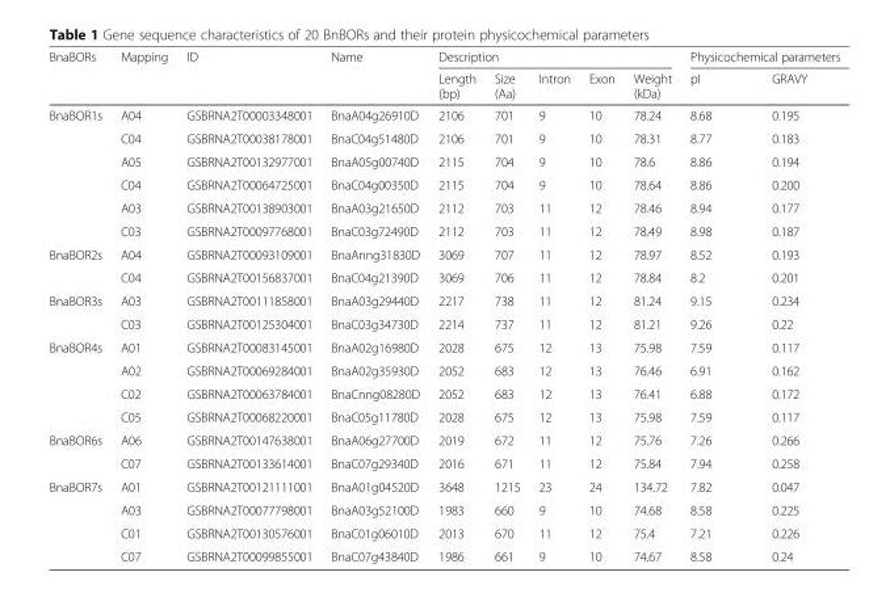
<table><thead><tr><td rowspan="2">BnaBORs</td><td rowspan="2">Mapping</td><td rowspan="2">ID</td><td rowspan="2">Name</td><td colspan="5">Description</td><td colspan="2">Physicochemical parameters</td></tr><tr><td>Length (bp)</td><td>Size (Aa)</td><td>Intron</td><td>Exon</td><td>Weight (kDa)</td><td>pI</td><td>GRAVY</td></tr></thead><tbody><tr><td rowspan="6">BnaBOR1s</td><td>A04</td><td>GSBRNA2T00003348001</td><td>BnaA04g26910D</td><td>2106</td><td>701</td><td>9</td><td>10</td><td>78.24</td><td>8.68</td><td>0.195</td></tr><tr><td>C04</td><td>GSBRNA2T00038178001</td><td>BnaC04g51480D</td><td>2106</td><td>701</td><td>9</td><td>10</td><td>78.31</td><td>8.77</td><td>0.183</td></tr><tr><td>A05</td><td>GSBRNA2T00132977001</td><td>BnaA05g00740D</td><td>2115</td><td>704</td><td>9</td><td>10</td><td>78.6</td><td>8.86</td><td>0.194</td></tr><tr><td>C04</td><td>GSBRNA2T00064725001</td><td>BnaC04g00350D</td><td>2115</td><td>704</td><td>9</td><td>10</td><td>78.64</td><td>8.86</td><td>0.200</td></tr><tr><td>A03</td><td>GSBRNA2T00138903001</td><td>BnaA03g21650D</td><td>2112</td><td>703</td><td>11</td><td>12</td><td>78.46</td><td>8.94</td><td>0.177</td></tr><tr><td>C03</td><td>GSBRNA2T00097768001</td><td>BnaC03g72490D</td><td>2112</td><td>703</td><td>11</td><td>12</td><td>78.49</td><td>8.98</td><td>0.187</td></tr><tr><td rowspan="2">BnaBOR2s</td><td>A04</td><td>GSBRNA2T00093109001</td><td>BnaAnng31830D</td><td>3069</td><td>707</td><td>11</td><td>12</td><td>78.97</td><td>8.52</td><td>0.193</td></tr><tr><td>C04</td><td>GSBRNA2T00156837001</td><td>BnaC04g21390D</td><td>3069</td><td>706</td><td>11</td><td>12</td><td>78.84</td><td>8.2</td><td>0.201</td></tr><tr><td rowspan="2">BnaBOR3s</td><td>A03</td><td>GSBRNA2T00111858001</td><td>BnaA03g29440D</td><td>2217</td><td>738</td><td>11</td><td>12</td><td>81.24</td><td>9.15</td><td>0.234</td></tr><tr><td>C03</td><td>GSBRNA2T00125304001</td><td>BnaC03g34730D</td><td>2214</td><td>737</td><td>11</td><td>12</td><td>81.21</td><td>9.26</td><td>0.22</td></tr><tr><td rowspan="4">BnaBOR4s</td><td>A01</td><td>GSBRNA2T00083145001</td><td>BnaA02g16980D</td><td>2028</td><td>675</td><td>12</td><td>13</td><td>75.98</td><td>7.59</td><td>0.117</td></tr><tr><td>A02</td><td>GSBRNA2T00069284001</td><td>BnaA02g35930D</td><td>2052</td><td>683</td><td>12</td><td>13</td><td>76.46</td><td>6.91</td><td>0.162</td></tr><tr><td>C02</td><td>GSBRNA2T00063784001</td><td>BnaCnng08280D</td><td>2052</td><td>683</td><td>12</td><td>13</td><td>76.41</td><td>6.88</td><td>0.172</td></tr><tr><td>C05</td><td>GSBRNA2T00068220001</td><td>BnaC05g11780D</td><td>2028</td><td>675</td><td>12</td><td>13</td><td>75.98</td><td>7.59</td><td>0.117</td></tr><tr><td rowspan="2">BnaBOR6s</td><td>A06</td><td>GSBRNA2T00147638001</td><td>BnaA06g27700D</td><td>2019</td><td>672</td><td>11</td><td>12</td><td>75.76</td><td>7.26</td><td>0.266</td></tr><tr><td>C07</td><td>GSBRNA2T00133614001</td><td>BnaC07g29340D</td><td>2016</td><td>671</td><td>11</td><td>12</td><td>75.84</td><td>7.94</td><td>0.258</td></tr><tr><td rowspan="4">BnaBOR7s</td><td>A01</td><td>GSBRNA2T00121111001</td><td>BnaA01g04520D</td><td>3648</td><td>1215</td><td>23</td><td>24</td><td>134.72</td><td>7.82</td><td>0.047</td></tr><tr><td>A03</td><td>GSBRNA2T00077798001</td><td>BnaA03g52100D</td><td>1983</td><td>660</td><td>9</td><td>10</td><td>74.68</td><td>8.58</td><td>0.225</td></tr><tr><td>C01</td><td>GSBRNA2T00130576001</td><td>BnaC01g06010D</td><td>2013</td><td>670</td><td>11</td><td>12</td><td>75.4</td><td>7.21</td><td>0.226</td></tr><tr><td>C07</td><td>GSBRNA2T00099855001</td><td>BnaC07g43840D</td><td>1986</td><td>661</td><td>9</td><td>10</td><td>74.67</td><td>8.58</td><td>0.24</td></tr></tbody></table>